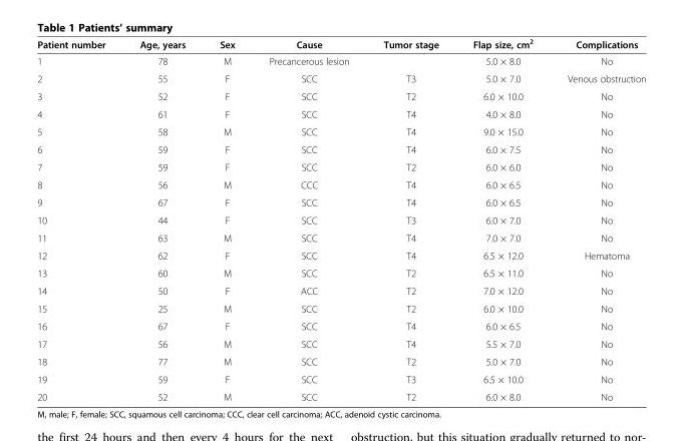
<table><thead><tr><td>Patient number</td><td>Age, years</td><td>Sex</td><td>Cause</td><td>Tumor stage</td><td>Flap size, cm<sup>2</sup></td><td>Complications</td></tr></thead><tbody><tr><td>1</td><td>78</td><td>M</td><td>Precancerous lesion</td><td></td><td>5.0 × 8.0</td><td>No</td></tr><tr><td>2</td><td>55</td><td>F</td><td>SCC</td><td>T3</td><td>5.0 × 7.0</td><td>Venous obstruction</td></tr><tr><td>3</td><td>52</td><td>F</td><td>SCC</td><td>T2</td><td>6.0 × 10.0</td><td>No</td></tr><tr><td>4</td><td>61</td><td>F</td><td>SCC</td><td>T4</td><td>4.0 × 8.0</td><td>No</td></tr><tr><td>5</td><td>58</td><td>M</td><td>SCC</td><td>T4</td><td>9.0 × 15.0</td><td>No</td></tr><tr><td>6</td><td>59</td><td>F</td><td>SCC</td><td>T4</td><td>6.0 × 7.5</td><td>No</td></tr><tr><td>7</td><td>59</td><td>F</td><td>SCC</td><td>T2</td><td>6.0 × 6.0</td><td>No</td></tr><tr><td>8</td><td>56</td><td>M</td><td>CCC</td><td>T4</td><td>6.0 × 6.5</td><td>No</td></tr><tr><td>9</td><td>67</td><td>F</td><td>SCC</td><td>T4</td><td>6.0 × 6.5</td><td>No</td></tr><tr><td>10</td><td>44</td><td>F</td><td>SCC</td><td>T3</td><td>6.0 × 7.0</td><td>No</td></tr><tr><td>11</td><td>63</td><td>M</td><td>SCC</td><td>T4</td><td>7.0 × 7.0</td><td>No</td></tr><tr><td>12</td><td>62</td><td>F</td><td>SCC</td><td>T4</td><td>6.5 × 12.0</td><td>Hematoma</td></tr><tr><td>13</td><td>60</td><td>M</td><td>SCC</td><td>T2</td><td>6.5 × 11.0</td><td>No</td></tr><tr><td>14</td><td>50</td><td>F</td><td>ACC</td><td>T2</td><td>7.0 × 12.0</td><td>No</td></tr><tr><td>15</td><td>25</td><td>M</td><td>SCC</td><td>T2</td><td>6.0 × 10.0</td><td>No</td></tr><tr><td>16</td><td>67</td><td>F</td><td>SCC</td><td>T4</td><td>6.0 × 6.5</td><td>No</td></tr><tr><td>17</td><td>56</td><td>M</td><td>SCC</td><td>T4</td><td>5.5 × 7.0</td><td>No</td></tr><tr><td>18</td><td>77</td><td>M</td><td>SCC</td><td>T2</td><td>5.0 × 7.0</td><td>No</td></tr><tr><td>19</td><td>59</td><td>F</td><td>SCC</td><td>T3</td><td>6.5 × 10.0</td><td>No</td></tr><tr><td>20</td><td>52</td><td>M</td><td>SCC</td><td>T2</td><td>6.0 × 8.0</td><td>No</td></tr></tbody></table>